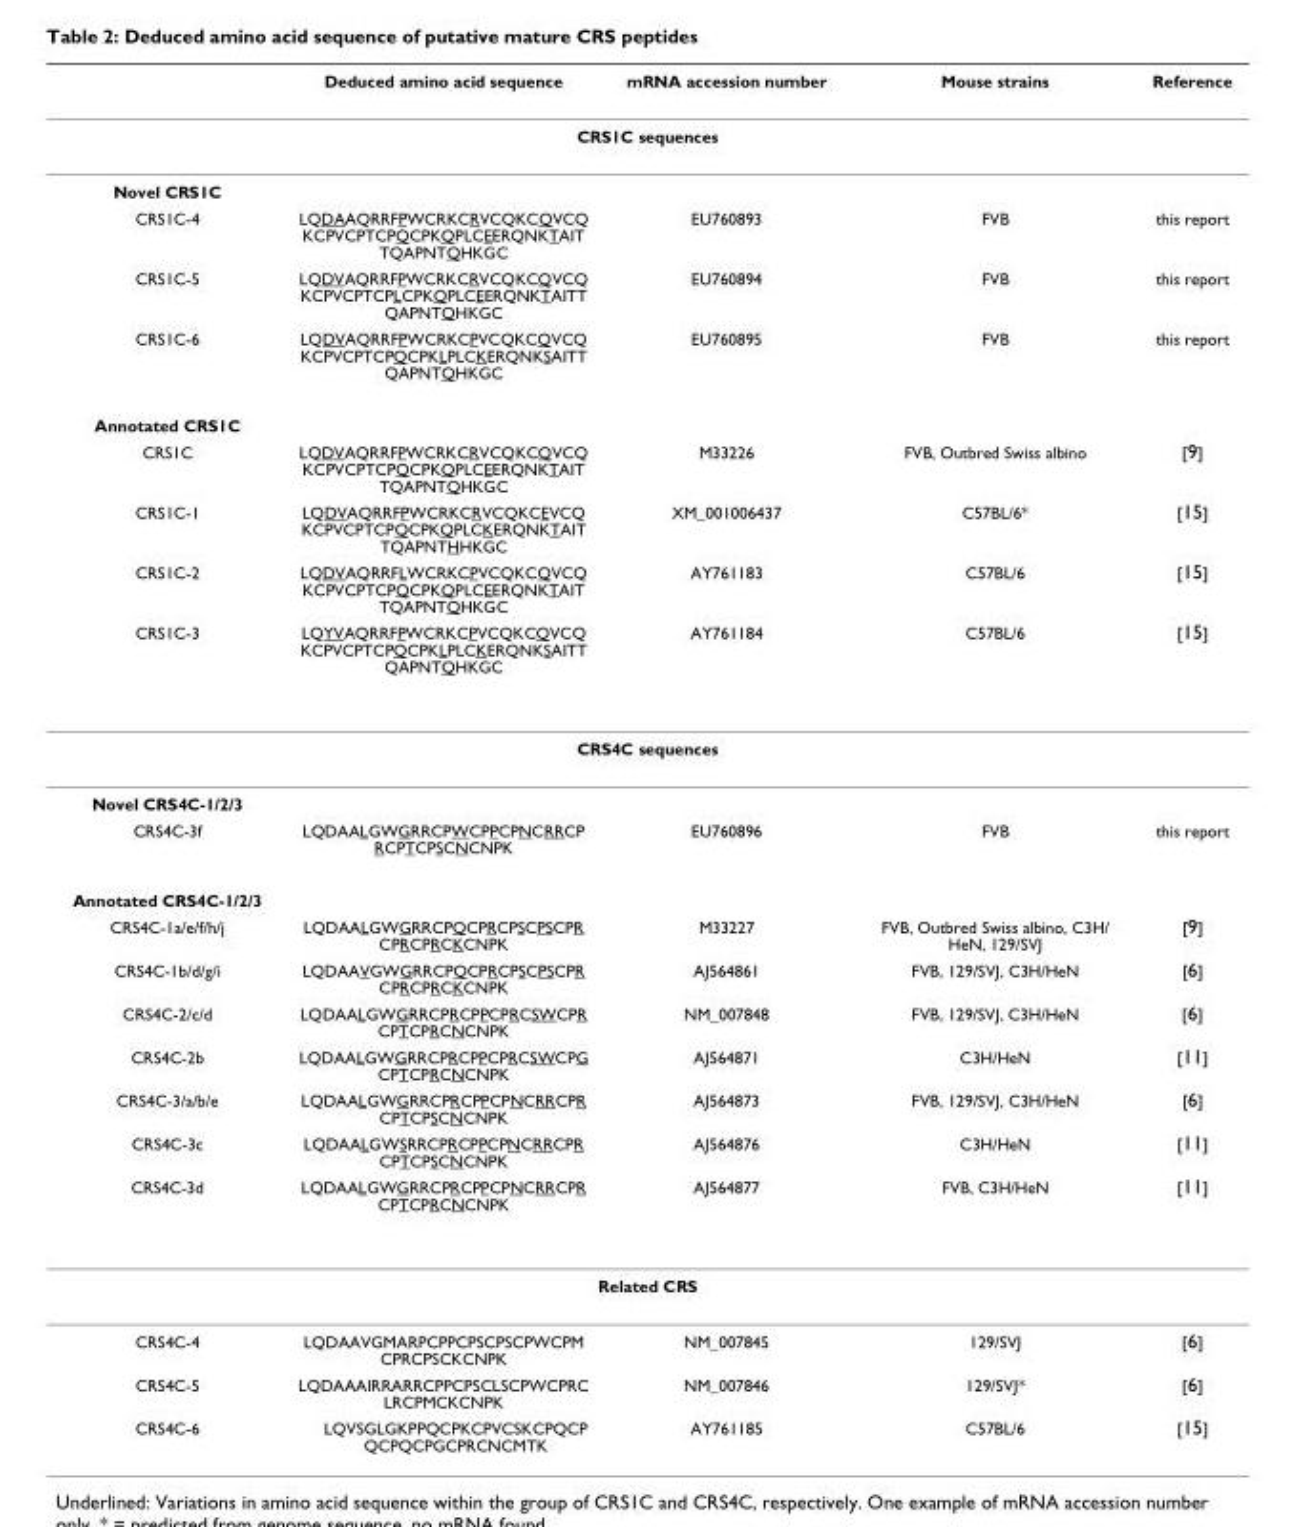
<table><thead><tr><td></td><td>Deduced amino acid sequence</td><td>mRNA accession number</td><td>Mouse strains</td><td>Reference</td></tr></thead><tbody><tr><td colspan="5">CRS1C sequences</td></tr><tr><td colspan="5">Novel CRS1C</td></tr><tr><td>CRS1C-4</td><td>LQDAAQRRFPWCRKCRVCQKCQVCQ KCPVCPTCPQCPKQPLCEERQNKTAIT TQAPNTQHKGC</td><td>EU760893</td><td>FVB</td><td>this report</td></tr><tr><td>CRS1C-5</td><td>LQDVAQRRFPWCRKCRVCQKCQVCQ KCPVCPTCPLCPKQPLCEERQNKTAITT QAPNTQHKGC</td><td>EU760894</td><td>FVB</td><td>this report</td></tr><tr><td>CRS1C-6</td><td>LQDVAQRRFPWCRKCPVCQKCQVCQ KCPVCPTCPQCPKLPLCKERQNKSAITT QAPNTQHKGC</td><td>EU760895</td><td>FVB</td><td>this report</td></tr><tr><td colspan="5">Annotated CRS1C</td></tr><tr><td>CRS1C</td><td>LQDVAQRRFPWCRKCRVCQKCQVCQ KCPVCPTCPQCPKQPLCEERQNKTAIT TQAPNTQHKGC</td><td>M33226</td><td>FVB, Outbred Swiss albino</td><td>[9]</td></tr><tr><td>CRS1C-1</td><td>LQDVAQRRFPWCRKCRVCQKCEVCQ KCPVCPTCPQCPKQPLCKERQNKTAIT TQAPNTHHKGC</td><td>XM_001006437</td><td>C57BL/6*</td><td>[15]</td></tr><tr><td>CRS1C-2</td><td>LQDVAQRRFLWCRKCPVCQKCQVCQ KCPVCPTCPQCPKQPLCEERQNKTAIT TQAPNTQHKGC</td><td>AY761183</td><td>C57BL/6</td><td>[15]</td></tr><tr><td>CRS1C-3</td><td>LQYVAQRRFPWCRKCPVCQKCQVCQ KCPVCPTCPQCPKLPLCKERQNKSAITT QAPNTQHKGC</td><td>AY761184</td><td>C57BL/6</td><td>[15]</td></tr><tr><td colspan="5">CRS4C sequences</td></tr><tr><td colspan="5">Novel CRS4C-1/2/3</td></tr><tr><td>CRS4C-3f</td><td>LQDAALGWGRRCPWCPPCPNCRRCP RCPTCPSCNCNPK</td><td>EU760896</td><td>FVB</td><td>this report</td></tr><tr><td colspan="5">Annotated CRS4C-1/2/3</td></tr><tr><td>CRS4C-1a/e/f/h/j</td><td>LQDAALGWGRRCPQCPRCPSCPSCPR CPRCPRCKCNPK</td><td>M33227</td><td>FVB, Outbred Swiss albino, C3H/ HeN, 129/SVJ</td><td>[9]</td></tr><tr><td>CRS4C-1b/d/g/i</td><td>LQDAAVGWGRRCPQCPRCPSCPSCPR CPRCPRCKCNPK</td><td>AJ564861</td><td>FVB, 129/SVJ, C3H/HeN</td><td>[6]</td></tr><tr><td>CRS4C-2/c/d</td><td>LQDAALGWGRRCPRCPPCPRCSWCPR CPTCPRCNCNPK</td><td>NM_007848</td><td>FVB, 129/SVJ, C3H/HeN</td><td>[6]</td></tr><tr><td>CRS4C-2b</td><td>LQDAALGWGRRCPRCPPCPRCSWCPG CPTCPRCNCNPK</td><td>AJ564871</td><td>C3H/HeN</td><td>[11]</td></tr><tr><td>CRS4C-3/a/b/e</td><td>LQDAALGWGRRCPRCPPCPNCRRCPR CPTCPSCNCNPK</td><td>AJ564873</td><td>FVB, 129/SVJ, C3H/HeN</td><td>[6]</td></tr><tr><td>CRS4C-3c</td><td>LQDAALGWSRRCPRCPPCPNCRRCPR CPTCPSCNCNPK</td><td>AJ564876</td><td>C3H/HeN</td><td>[11]</td></tr><tr><td>CRS4C-3d</td><td>LQDAALGWGRRCPRCPPCPNCRRCPR CPTCPRCNCNPK</td><td>AJ564877</td><td>FVB, C3H/HeN</td><td>[11]</td></tr><tr><td colspan="5">Related CRS</td></tr><tr><td>CRS4C-4</td><td>LQDAAVGMARPCPPCPSCPSCPWCPM CPRCPSCKCNPK</td><td>NM_007845</td><td>129/SVJ</td><td>[6]</td></tr><tr><td>CRS4C-5</td><td>LQDAAAIRRARRCPPCPSCLSCPWCPRC LRCPMCKCNPK</td><td>NM_007846</td><td>129/SVJ*</td><td>[6]</td></tr><tr><td>CRS4C-6</td><td>LQVSGLGKPPQCPKCPVCSKCPQCP QCPQCPGCPRCNCMTK</td><td>AY761185</td><td>C57BL/6</td><td>[15]</td></tr></tbody></table>